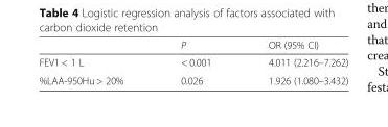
<table><thead><tr><td></td><td>P</td><td>OR (95% CI)</td></tr></thead><tbody><tr><td>FEV1 &lt; 1 L</td><td>&lt; 0.001</td><td>4.011 (2.216–7.262)</td></tr><tr><td>%LAA-950Hu &gt; 20%</td><td>0.026</td><td>1.926 (1.080–3.432)</td></tr></tbody></table>